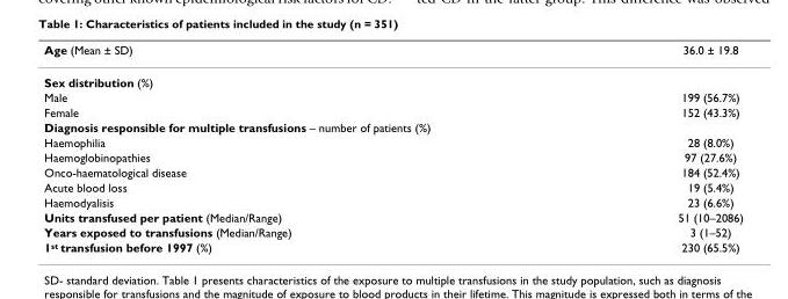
<table><thead><tr><td>Age (Mean ± SD)</td><td>36.0 ± 19.8</td></tr></thead><tbody><tr><td colspan="2">Sex distribution (%)</td></tr><tr><td>Male</td><td>199 (56.7%)</td></tr><tr><td>Female</td><td>152 (43.3%)</td></tr><tr><td colspan="2">Diagnosis responsible for multiple transfusions – number of patients (%)</td></tr><tr><td>Haemophilia</td><td>28 (8.0%)</td></tr><tr><td>Haemoglobinopathies</td><td>97 (27.6%)</td></tr><tr><td>Onco-haematological disease</td><td>184 (52.4%)</td></tr><tr><td>Acute blood loss</td><td>19 (5.4%)</td></tr><tr><td>Haemodyalisis</td><td>23 (6.6%)</td></tr><tr><td>Units transfused per patient (Median/Range)</td><td>51 (10–2086)</td></tr><tr><td>Years exposed to transfusions (Median/Range)</td><td>3 (1–52)</td></tr><tr><td>1<sup>st</sup> transfusion before 1997 (%)</td><td>230 (65.5%)</td></tr></tbody></table>